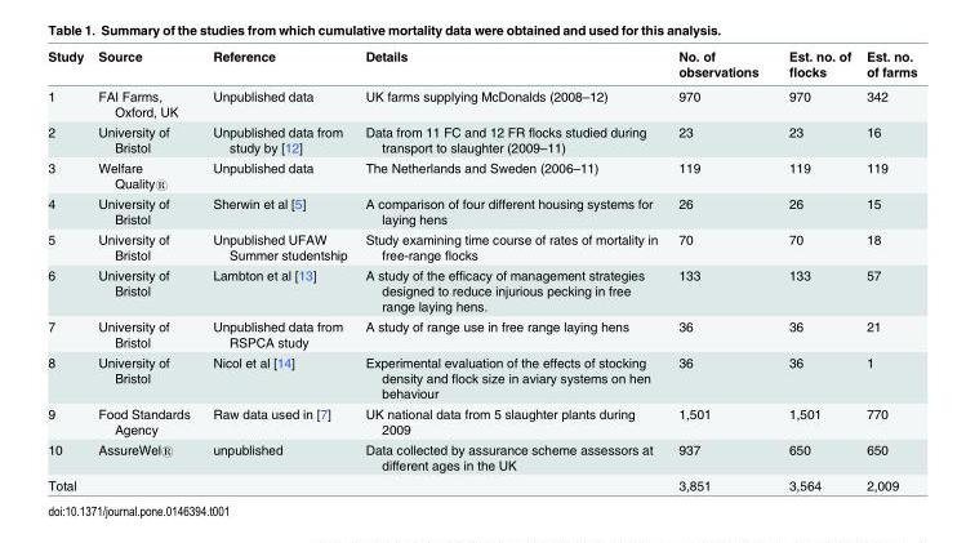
<table><thead><tr><td>Study</td><td>Source</td><td>Reference</td><td>Details</td><td>No. of observations</td><td>Est. no. of flocks</td><td>Est. no. of farms</td></tr></thead><tbody><tr><td>1</td><td>FAI Farms, Oxford, UK</td><td>Unpublished data</td><td>UK farms supplying McDonalds (2008–12)</td><td>970</td><td>970</td><td>342</td></tr><tr><td>2</td><td>University of Bristol</td><td>Unpublished data from study by [12]</td><td>Data from 11 FC and 12 FR flocks studied during transport to slaughter (2009–11)</td><td>23</td><td>23</td><td>16</td></tr><tr><td>3</td><td>Welfare Quality®</td><td>Unpublished data</td><td>The Netherlands and Sweden (2006–11)</td><td>119</td><td>119</td><td>119</td></tr><tr><td>4</td><td>University of Bristol</td><td>Sherwin et al [5]</td><td>A comparison of four different housing systems for laying hens</td><td>26</td><td>26</td><td>15</td></tr><tr><td>5</td><td>University of Bristol</td><td>Unpublished UFAW Summer studentship</td><td>Study examining time course of rates of mortality in free-range flocks</td><td>70</td><td>70</td><td>18</td></tr><tr><td>6</td><td>University of Bristol</td><td>Lambton et al [13]</td><td>A study of the efficacy of management strategies designed to reduce injurious pecking in free range laying hens.</td><td>133</td><td>133</td><td>57</td></tr><tr><td>7</td><td>University of Bristol</td><td>Unpublished data from RSPCA study</td><td>A study of range use in free range laying hens</td><td>36</td><td>36</td><td>21</td></tr><tr><td>8</td><td>University of Bristol</td><td>Nicol et al [14]</td><td>Experimental evaluation of the effects of stocking density and flock size in aviary systems on hen behaviour</td><td>36</td><td>36</td><td>1</td></tr><tr><td>9</td><td>Food Standards Agency</td><td>Raw data used in [7]</td><td>UK national data from 5 slaughter plants during 2009</td><td>1,501</td><td>1,501</td><td>770</td></tr><tr><td>10</td><td>AssureWel®</td><td>unpublished</td><td>Data collected by assurance scheme assessors at different ages in the UK</td><td>937</td><td>650</td><td>650</td></tr><tr><td>Total</td><td></td><td></td><td></td><td>3,851</td><td>3,564</td><td>2,009</td></tr></tbody></table>